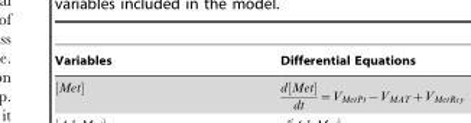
<table><thead><tr><td>Variables</td><td>Differential Equations</td></tr></thead><tbody></tbody></table>